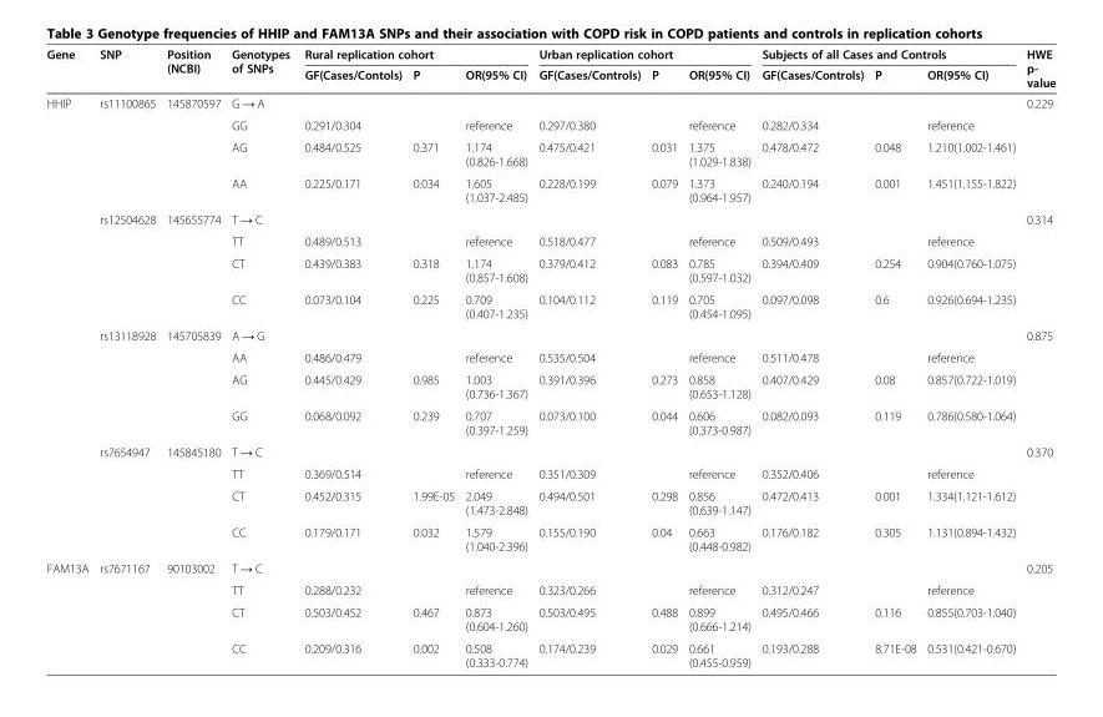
<table><thead><tr><td rowspan="2">Gene</td><td rowspan="2">SNP</td><td rowspan="2">Position (NCBI)</td><td rowspan="2">Genotypes of SNPs</td><td colspan="3">Rural replication cohort</td><td colspan="3">Urban replication cohort</td><td colspan="3">Subjects of all Cases and Controls</td><td rowspan="2">HWE p- value</td></tr><tr><td>GF(Cases/Contols)</td><td>P</td><td>OR(95% CI)</td><td>GF(Cases/Controls)</td><td>P</td><td>OR(95% CI)</td><td>GF(Cases/Controls)</td><td>P</td><td>OR(95% CI)</td></tr></thead><tbody><tr><td rowspan="16">HHIP</td><td>rs11100865</td><td>145870597</td><td>G → A</td><td></td><td></td><td></td><td></td><td></td><td></td><td></td><td></td><td></td><td>0.229</td></tr><tr><td></td><td></td><td>GG</td><td>0.291/0.304</td><td></td><td>reference</td><td>0.297/0.380</td><td></td><td>reference</td><td>0.282/0.334</td><td></td><td>reference</td><td></td></tr><tr><td></td><td></td><td>AG</td><td>0.484/0.525</td><td>0.371</td><td>1.174 (0.826-1.668)</td><td>0.475/0.421</td><td>0.031</td><td>1.375 (1.029-1.838)</td><td>0.478/0.472</td><td>0.048</td><td>1.210(1.002-1.461)</td><td></td></tr><tr><td></td><td></td><td>AA</td><td>0.225/0.171</td><td>0.034</td><td>1.605 (1.037-2.485)</td><td>0.228/0.199</td><td>0.079</td><td>1.373 (0.964-1.957)</td><td>0.240/0.194</td><td>0.001</td><td>1.451(1.155-1.822)</td><td></td></tr><tr><td>rs12504628</td><td>145655774</td><td>T → C</td><td></td><td></td><td></td><td></td><td></td><td></td><td></td><td></td><td></td><td>0.314</td></tr><tr><td></td><td></td><td>TT</td><td>0.489/0.513</td><td></td><td>reference</td><td>0.518/0.477</td><td></td><td>reference</td><td>0.509/0.493</td><td></td><td>reference</td><td></td></tr><tr><td></td><td></td><td>CT</td><td>0.439/0.383</td><td>0.318</td><td>1.174 (0.857-1.608)</td><td>0.379/0.412</td><td>0.083</td><td>0.785 (0.597-1.032)</td><td>0.394/0.409</td><td>0.254</td><td>0.904(0.760-1.075)</td><td></td></tr><tr><td></td><td></td><td>CC</td><td>0.073/0.104</td><td>0.225</td><td>0.709 (0.407-1.235)</td><td>0.104/0.112</td><td>0.119</td><td>0.705 (0.454-1.095)</td><td>0.097/0.098</td><td>0.6</td><td>0.926(0.694-1.235)</td><td></td></tr><tr><td>rs13118928</td><td>145705839</td><td>A → G</td><td></td><td></td><td></td><td></td><td></td><td></td><td></td><td></td><td></td><td>0.875</td></tr><tr><td></td><td></td><td>AA</td><td>0.486/0.479</td><td></td><td>reference</td><td>0.535/0.504</td><td></td><td>reference</td><td>0.511/0.478</td><td></td><td>reference</td><td></td></tr><tr><td></td><td></td><td>AG</td><td>0.445/0.429</td><td>0.985</td><td>1.003 (0.736-1.367)</td><td>0.391/0.396</td><td>0.273</td><td>0.858 (0.653-1.128)</td><td>0.407/0.429</td><td>0.08</td><td>0.857(0.722-1.019)</td><td></td></tr><tr><td></td><td></td><td>GG</td><td>0.068/0.092</td><td>0.239</td><td>0.707 (0.397-1.259)</td><td>0.073/0.100</td><td>0.044</td><td>0.606 (0.373-0.987)</td><td>0.082/0.093</td><td>0.119</td><td>0.786(0.580-1.064)</td><td></td></tr><tr><td>rs7654947</td><td>145845180</td><td>T → C</td><td></td><td></td><td></td><td></td><td></td><td></td><td></td><td></td><td></td><td>0.370</td></tr><tr><td></td><td></td><td>TT</td><td>0.369/0.514</td><td></td><td>reference</td><td>0.351/0.309</td><td></td><td>reference</td><td>0.352/0.406</td><td></td><td>reference</td><td></td></tr><tr><td></td><td></td><td>CT</td><td>0.452/0.315</td><td>1.99E-05</td><td>2.049 (1.473-2.848)</td><td>0.494/0.501</td><td>0.298</td><td>0.856 (0.639-1.147)</td><td>0.472/0.413</td><td>0.001</td><td>1.334(1.121-1.612)</td><td></td></tr><tr><td></td><td></td><td>CC</td><td>0.179/0.171</td><td>0.032</td><td>1.579 (1.040-2.396)</td><td>0.155/0.190</td><td>0.04</td><td>0.663 (0.448-0.982)</td><td>0.176/0.182</td><td>0.305</td><td>1.131(0.894-1.432)</td><td></td></tr><tr><td rowspan="4">FAM13A</td><td>rs7671167</td><td>90103002</td><td>T → C</td><td></td><td></td><td></td><td></td><td></td><td></td><td></td><td></td><td></td><td>0.205</td></tr><tr><td></td><td></td><td>TT</td><td>0.288/0.232</td><td></td><td>reference</td><td>0.323/0.266</td><td></td><td>reference</td><td>0.312/0.247</td><td></td><td>reference</td><td></td></tr><tr><td></td><td></td><td>CT</td><td>0.503/0.452</td><td>0.467</td><td>0.873 (0.604-1.260)</td><td>0.503/0.495</td><td>0.488</td><td>0.899 (0.666-1.214)</td><td>0.495/0.466</td><td>0.116</td><td>0.855(0.703-1.040)</td><td></td></tr><tr><td></td><td></td><td>CC</td><td>0.209/0.316</td><td>0.002</td><td>0.508 (0.333-0.774)</td><td>0.174/0.239</td><td>0.029</td><td>0.661 (0.455-0.959)</td><td>0.193/0.288</td><td>8.71E-08</td><td>0.531(0.421-0.670)</td><td></td></tr></tbody></table>